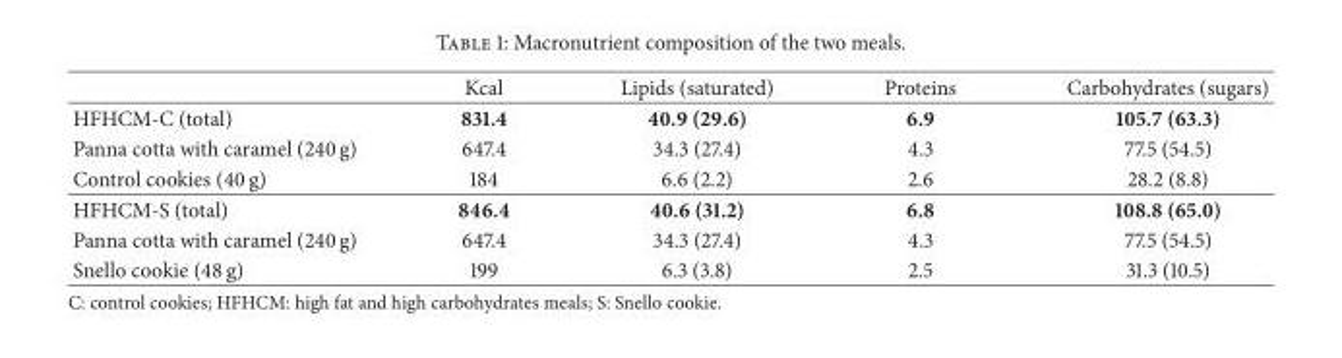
<table><thead><tr><td></td><td>Kcal</td><td>Lipids (saturated)</td><td>Proteins</td><td>Carbohydrates (sugars)</td></tr></thead><tbody><tr><td>HFHCM-C (total)</td><td>831.4</td><td>40.9 (29.6)</td><td>6.9</td><td>105.7 (63.3)</td></tr><tr><td>Panna cotta with caramel (240 g)</td><td>647.4</td><td>34.3 (27.4)</td><td>4.3</td><td>77.5 (54.5)</td></tr><tr><td>Control cookies (40 g)</td><td>184</td><td>6.6 (2.2)</td><td>2.6</td><td>28.2 (8.8)</td></tr><tr><td>HFHCM-S (total)</td><td>846.4</td><td>40.6 (31.2)</td><td>6.8</td><td>108.8 (65.0)</td></tr><tr><td>Panna cotta with caramel (240 g)</td><td>647.4</td><td>34.3 (27.4)</td><td>4.3</td><td>77.5 (54.5)</td></tr><tr><td>Snello cookie (48 g)</td><td>199</td><td>6.3 (3.8)</td><td>2.5</td><td>31.3 (10.5)</td></tr></tbody></table>